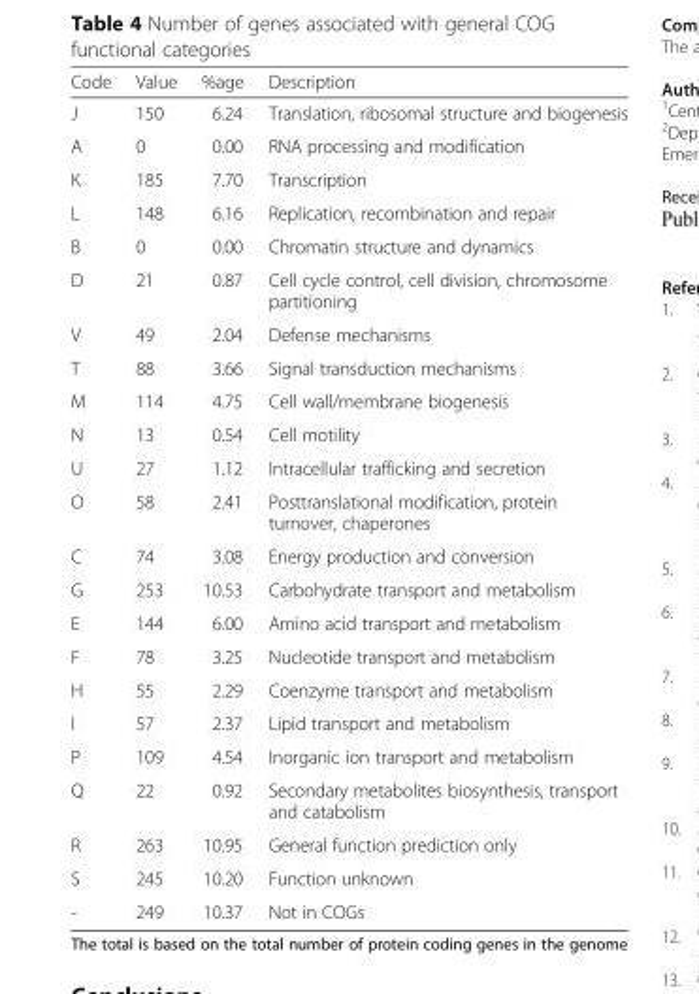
<table><thead><tr><td>Code</td><td>Value</td><td>%age</td><td>Description</td></tr></thead><tbody><tr><td>J</td><td>150</td><td>6.24</td><td>Translation, ribosomal structure and biogenesis</td></tr><tr><td>A</td><td>0</td><td>0.00</td><td>RNA processing and modification</td></tr><tr><td>K</td><td>185</td><td>7.70</td><td>Transcription</td></tr><tr><td>L</td><td>148</td><td>6.16</td><td>Replication, recombination and repair</td></tr><tr><td>B</td><td>0</td><td>0.00</td><td>Chromatin structure and dynamics</td></tr><tr><td>D</td><td>21</td><td>0.87</td><td>Cell cycle control, cell division, chromosome partitioning</td></tr><tr><td>V</td><td>49</td><td>2.04</td><td>Defense mechanisms</td></tr><tr><td>T</td><td>88</td><td>3.66</td><td>Signal transduction mechanisms</td></tr><tr><td>M</td><td>114</td><td>4.75</td><td>Cell wall/membrane biogenesis</td></tr><tr><td>N</td><td>13</td><td>0.54</td><td>Cell motility</td></tr><tr><td>U</td><td>27</td><td>1.12</td><td>Intracellular trafficking and secretion</td></tr><tr><td>O</td><td>58</td><td>2.41</td><td>Posttranslational modification, protein turnover, chaperones</td></tr><tr><td>C</td><td>74</td><td>3.08</td><td>Energy production and conversion</td></tr><tr><td>G</td><td>253</td><td>10.53</td><td>Carbohydrate transport and metabolism</td></tr><tr><td>E</td><td>144</td><td>6.00</td><td>Amino acid transport and metabolism</td></tr><tr><td>F</td><td>78</td><td>3.25</td><td>Nucleotide transport and metabolism</td></tr><tr><td>H</td><td>55</td><td>2.29</td><td>Coenzyme transport and metabolism</td></tr><tr><td>I</td><td>57</td><td>2.37</td><td>Lipid transport and metabolism</td></tr><tr><td>P</td><td>109</td><td>4.54</td><td>Inorganic ion transport and metabolism</td></tr><tr><td>Q</td><td>22</td><td>0.92</td><td>Secondary metabolites biosynthesis, transport and catabolism</td></tr><tr><td>R</td><td>263</td><td>10.95</td><td>General function prediction only</td></tr><tr><td>S</td><td>245</td><td>10.20</td><td>Function unknown</td></tr><tr><td>-</td><td>249</td><td>10.37</td><td>Not in COGs</td></tr></tbody></table>